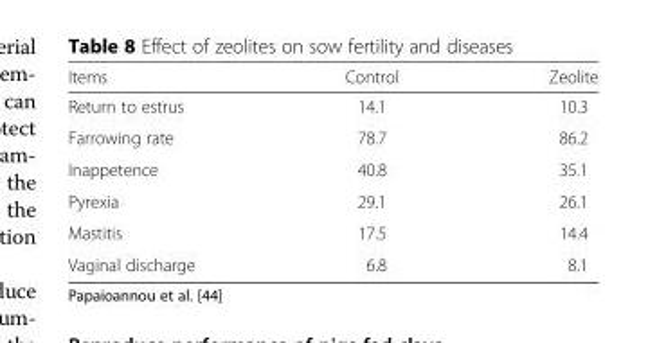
<table><thead><tr><td>Items</td><td>Control</td><td>Zeolite</td></tr></thead><tbody><tr><td>Return to estrus</td><td>14.1</td><td>10.3</td></tr><tr><td>Farrowing rate</td><td>78.7</td><td>86.2</td></tr><tr><td>Inappetence</td><td>40.8</td><td>35.1</td></tr><tr><td>Pyrexia</td><td>29.1</td><td>26.1</td></tr><tr><td>Mastitis</td><td>17.5</td><td>14.4</td></tr><tr><td>Vaginal discharge</td><td>6.8</td><td>8.1</td></tr></tbody></table>